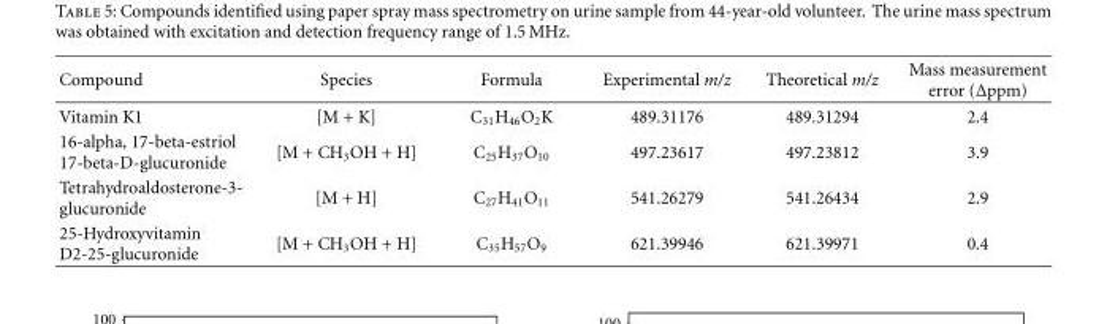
<table><thead><tr><td>Compound</td><td>Species</td><td>Formula</td><td>Experimental m/z</td><td>Theoretical m/z</td><td>Mass measurement error (Δppm)</td></tr></thead><tbody><tr><td>Vitamin K1</td><td>[M + K]</td><td>C<sub>31</sub>H<sub>46</sub>O<sub>2</sub>K</td><td>489.31176</td><td>489.31294</td><td>2.4</td></tr><tr><td>16-alpha, 17-beta-estriol 17-beta-D-glucuronide</td><td>[M + CH<sub>3</sub>OH + H]</td><td>C<sub>25</sub>H<sub>37</sub>O<sub>10</sub></td><td>497.23617</td><td>497.23812</td><td>3.9</td></tr><tr><td>Tetrahydroaldosterone-3- glucuronide</td><td>[M + H]</td><td>C<sub>27</sub>H<sub>41</sub>O<sub>11</sub></td><td>541.26279</td><td>541.26434</td><td>2.9</td></tr><tr><td>25-Hydroxyvitamin D2-25-glucuronide</td><td>[M + CH<sub>3</sub>OH + H]</td><td>C<sub>35</sub>H<sub>57</sub>O<sub>9</sub></td><td>621.39946</td><td>621.39971</td><td>0.4</td></tr></tbody></table>